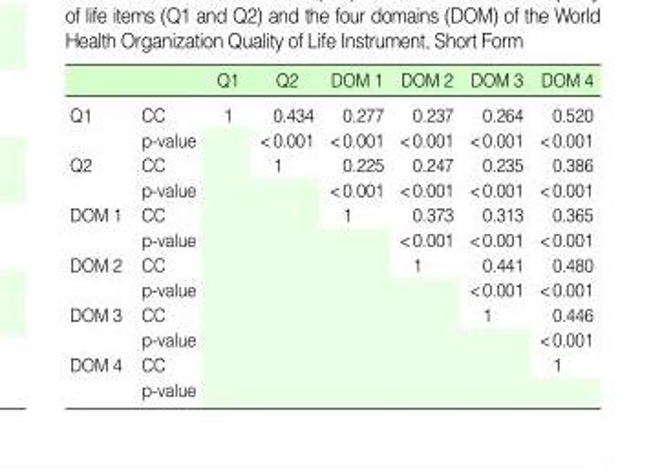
<table><thead><tr><td></td><td></td><td>Q1</td><td>Q2</td><td>DOM 1</td><td>DOM 2</td><td>DOM 3</td><td>DOM 4</td></tr></thead><tbody><tr><td rowspan="2">Q1</td><td>CC</td><td>1</td><td>0.434</td><td>0.277</td><td>0.237</td><td>0.264</td><td>0.520</td></tr><tr><td>p-value</td><td></td><td>&lt;0.001</td><td>&lt;0.001</td><td>&lt;0.001</td><td>&lt;0.001</td><td>&lt;0.001</td></tr><tr><td rowspan="2">Q2</td><td>CC</td><td></td><td>1</td><td>0.225</td><td>0.247</td><td>0.235</td><td>0.386</td></tr><tr><td>p-value</td><td></td><td></td><td>&lt;0.001</td><td>&lt;0.001</td><td>&lt;0.001</td><td>&lt;0.001</td></tr><tr><td rowspan="2">DOM 1</td><td>CC</td><td></td><td></td><td>1</td><td>0.373</td><td>0.313</td><td>0.365</td></tr><tr><td>p-value</td><td></td><td></td><td></td><td>&lt;0.001</td><td>&lt;0.001</td><td>&lt;0.001</td></tr><tr><td rowspan="2">DOM 2</td><td>CC</td><td></td><td></td><td></td><td>1</td><td>0.441</td><td>0.480</td></tr><tr><td>p-value</td><td></td><td></td><td></td><td></td><td>&lt;0.001</td><td>&lt;0.001</td></tr><tr><td rowspan="2">DOM 3</td><td>CC</td><td></td><td></td><td></td><td></td><td>1</td><td>0.446</td></tr><tr><td>p-value</td><td></td><td></td><td></td><td></td><td></td><td>&lt;0.001</td></tr><tr><td rowspan="2">DOM 4</td><td>CC</td><td></td><td></td><td></td><td></td><td></td><td>1</td></tr><tr><td>p-value</td><td></td><td></td><td></td><td></td><td></td><td></td></tr></tbody></table>